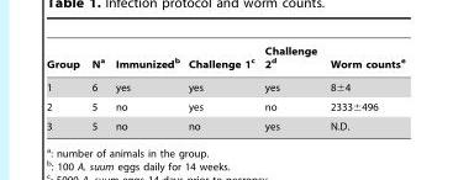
<table><thead><tr><td>Group</td><td>N<sup>a</sup></td><td>Immunized<sup>b</sup></td><td>Challenge 1<sup>c</sup></td><td>Challenge 2<sup>d</sup></td><td>Worm counts<sup>e</sup></td></tr></thead><tbody><tr><td>1</td><td>6</td><td>yes</td><td>yes</td><td>yes</td><td>8±4</td></tr><tr><td>2</td><td>5</td><td>no</td><td>yes</td><td>no</td><td>2333±496</td></tr><tr><td>3</td><td>5</td><td>no</td><td>no</td><td>yes</td><td>N.D.</td></tr></tbody></table>